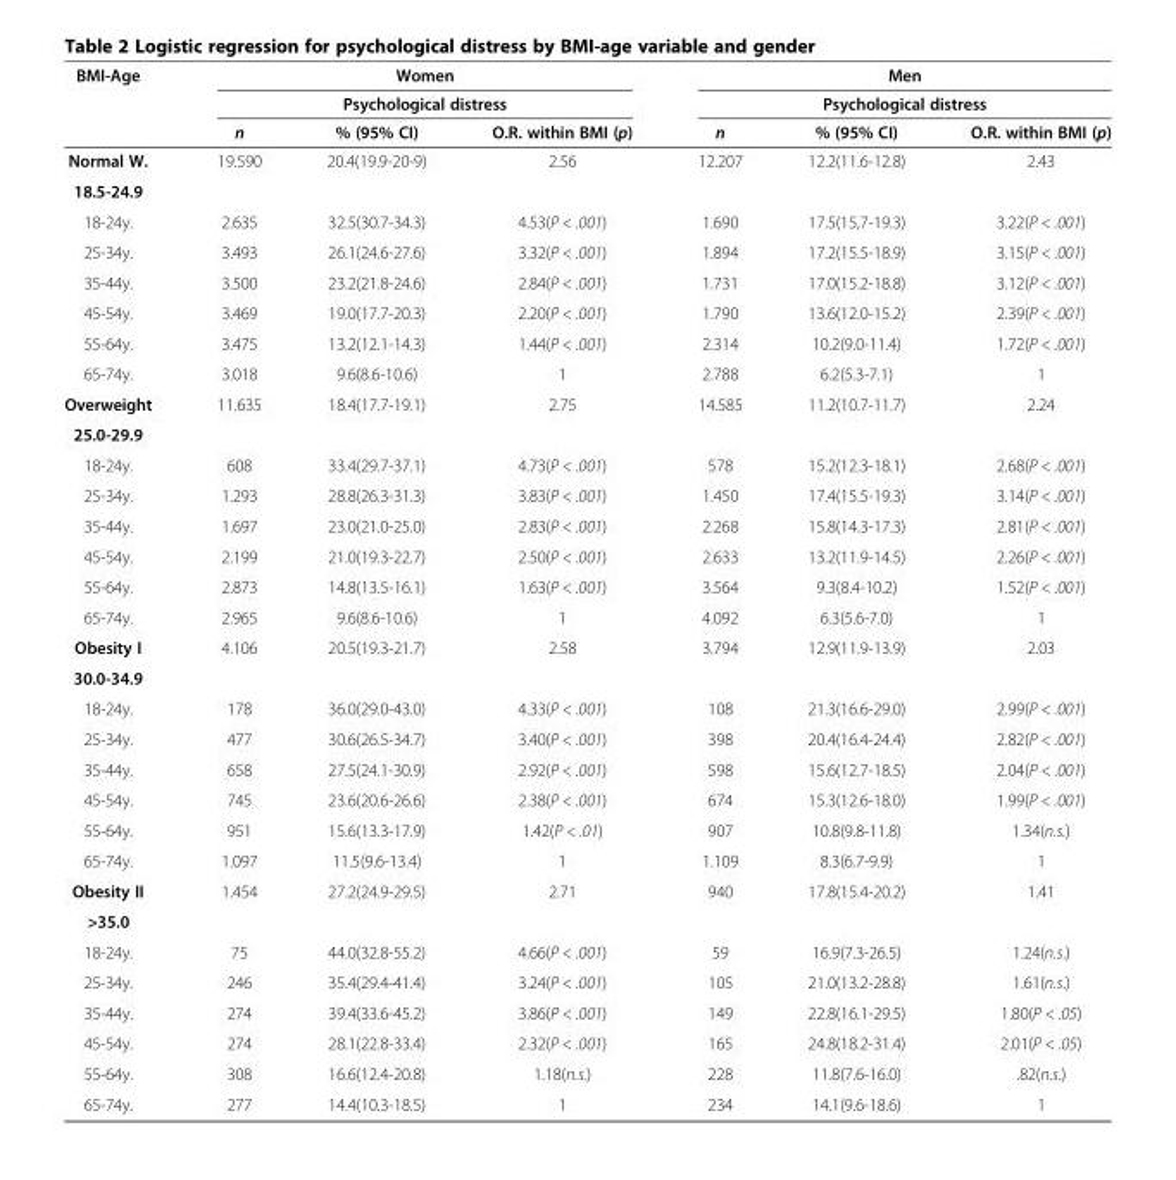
<table><thead><tr><td rowspan="3">BMI-Age</td><td rowspan="2" colspan="3">Women Psychological distress</td><td rowspan="2" colspan="3">Men Psychological distress</td></tr><tr></tr><tr><td>n</td><td>% (95% CI)</td><td>O.R. within BMI (p)</td><td>n</td><td>% (95% CI)</td><td>O.R. within BMI (p)</td></tr></thead><tbody><tr><td>Normal W.</td><td rowspan="2">19.590</td><td rowspan="2">20.4(19.9-20-9)</td><td rowspan="2">2.56</td><td rowspan="2">12.207</td><td rowspan="2">12.2(11.6-12.8)</td><td rowspan="2">2.43</td></tr><tr><td>18.5-24.9</td></tr><tr><td>18-24y.</td><td>2.635</td><td>32.5(30.7-34.3)</td><td>4.53(P &lt; .001)</td><td>1.690</td><td>17.5(15,7-19.3)</td><td>3.22(P &lt; .001)</td></tr><tr><td>25-34y.</td><td>3.493</td><td>26.1(24.6-27.6)</td><td>3.32(P &lt; .001)</td><td>1.894</td><td>17.2(15.5-18.9)</td><td>3.15(P &lt; .001)</td></tr><tr><td>35-44y.</td><td>3.500</td><td>23.2(21.8-24.6)</td><td>2.84(P &lt; .001)</td><td>1.731</td><td>17.0(15.2-18.8)</td><td>3.12(P &lt; .001)</td></tr><tr><td>45-54y.</td><td>3.469</td><td>19.0(17.7-20.3)</td><td>2.20(P &lt; .001)</td><td>1.790</td><td>13.6(12.0-15.2)</td><td>2.39(P &lt; .001)</td></tr><tr><td>55-64y.</td><td>3.475</td><td>13.2(12.1-14.3)</td><td>1.44(P &lt; .001)</td><td>2.314</td><td>10.2(9.0-11.4)</td><td>1.72(P &lt; .001)</td></tr><tr><td>65-74y.</td><td>3.018</td><td>9.6(8.6-10.6)</td><td>1</td><td>2.788</td><td>6.2(5.3-7.1)</td><td>1</td></tr><tr><td>Overweight</td><td rowspan="2">11.635</td><td rowspan="2">18.4(17.7-19.1)</td><td rowspan="2">2.75</td><td rowspan="2">14.585</td><td rowspan="2">11.2(10.7-11.7)</td><td rowspan="2">2.24</td></tr><tr><td>25.0-29.9</td></tr><tr><td>18-24y.</td><td>608</td><td>33.4(29.7-37.1)</td><td>4.73(P &lt; .001)</td><td>578</td><td>15.2(12.3-18.1)</td><td>2.68(P &lt; .001)</td></tr><tr><td>25-34y.</td><td>1.293</td><td>28.8(26.3-31.3)</td><td>3.83(P &lt; .001)</td><td>1.450</td><td>17.4(15.5-19.3)</td><td>3.14(P &lt; .001)</td></tr><tr><td>35-44y.</td><td>1.697</td><td>23.0(21.0-25.0)</td><td>2.83(P &lt; .001)</td><td>2.268</td><td>15.8(14.3-17.3)</td><td>2.81(P &lt; .001)</td></tr><tr><td>45-54y.</td><td>2.199</td><td>21.0(19.3-22.7)</td><td>2.50(P &lt; .001)</td><td>2.633</td><td>13.2(11.9-14.5)</td><td>2.26(P &lt; .001)</td></tr><tr><td>55-64y.</td><td>2.873</td><td>14.8(13.5-16.1)</td><td>1.63(P &lt; .001)</td><td>3.564</td><td>9.3(8.4-10.2)</td><td>1.52(P &lt; .001)</td></tr><tr><td>65-74y.</td><td>2.965</td><td>9.6(8.6-10.6)</td><td>1</td><td>4.092</td><td>6.3(5.6-7.0)</td><td>1</td></tr><tr><td>Obesity I</td><td rowspan="2">4.106</td><td rowspan="2">20.5(19.3-21.7)</td><td rowspan="2">2.58</td><td rowspan="2">3.794</td><td rowspan="2">12.9(11.9-13.9)</td><td rowspan="2">2.03</td></tr><tr><td>30.0-34.9</td></tr><tr><td>18-24y.</td><td>178</td><td>36.0(29.0-43.0)</td><td>4.33(P &lt; .001)</td><td>108</td><td>21.3(16.6-29.0)</td><td>2.99(P &lt; .001)</td></tr><tr><td>25-34y.</td><td>477</td><td>30.6(26.5-34.7)</td><td>3.40(P &lt; .001)</td><td>398</td><td>20.4(16.4-24.4)</td><td>2.82(P &lt; .001)</td></tr><tr><td>35-44y.</td><td>658</td><td>27.5(24.1-30.9)</td><td>2.92(P &lt; .001)</td><td>598</td><td>15.6(12.7-18.5)</td><td>2.04(P &lt; .001)</td></tr><tr><td>45-54y.</td><td>745</td><td>23.6(20.6-26.6)</td><td>2.38(P &lt; .001)</td><td>674</td><td>15.3(12.6-18.0)</td><td>1.99(P &lt; .001)</td></tr><tr><td>55-64y.</td><td>951</td><td>15.6(13.3-17.9)</td><td>1.42(P &lt; .01)</td><td>907</td><td>10.8(9.8-11.8)</td><td>1.34(n.s.)</td></tr><tr><td>65-74y.</td><td>1.097</td><td>11.5(9.6-13.4)</td><td>1</td><td>1.109</td><td>8.3(6.7-9.9)</td><td>1</td></tr><tr><td>Obesity II</td><td rowspan="2">1.454</td><td rowspan="2">27.2(24.9-29.5)</td><td rowspan="2">2.71</td><td rowspan="2">940</td><td rowspan="2">17.8(15.4-20.2)</td><td rowspan="2">1.41</td></tr><tr><td>&gt;35.0</td></tr><tr><td>18-24y.</td><td>75</td><td>44.0(32.8-55.2)</td><td>4.66(P &lt; .001)</td><td>59</td><td>16.9(7.3-26.5)</td><td>1.24(n.s.)</td></tr><tr><td>25-34y.</td><td>246</td><td>35.4(29.4-41.4)</td><td>3.24(P &lt; .001)</td><td>105</td><td>21.0(13.2-28.8)</td><td>1.61(n.s.)</td></tr><tr><td>35-44y.</td><td>274</td><td>39.4(33.6-45.2)</td><td>3.86(P &lt; .001)</td><td>149</td><td>22.8(16.1-29.5)</td><td>1.80(P &lt; .05)</td></tr><tr><td>45-54y.</td><td>274</td><td>28.1(22.8-33.4)</td><td>2.32(P &lt; .001)</td><td>165</td><td>24.8(18.2-31.4)</td><td>2.01(P &lt; .05)</td></tr><tr><td>55-64y.</td><td>308</td><td>16.6(12.4-20.8)</td><td>1.18(n.s.)</td><td>228</td><td>11.8(7.6-16.0)</td><td>.82(n.s.)</td></tr><tr><td>65-74y.</td><td>277</td><td>14.4(10.3-18.5)</td><td>1</td><td>234</td><td>14.1(9.6-18.6)</td><td>1</td></tr></tbody></table>